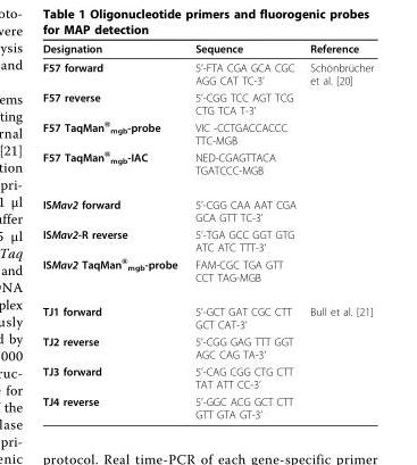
<table><thead><tr><td>Designation</td><td>Sequence</td><td>Reference</td></tr></thead><tbody><tr><td>F57 forward</td><td>5’-FTA CGA GCA CGC AGG CAT TC-3’</td><td>Schönbrücher et al. [20]</td></tr><tr><td>F57 reverse</td><td>5’-CGG TCC AGT TCG CTG TCA T-3’</td><td></td></tr><tr><td>F57 TaqMan<sup>®</sup> <sub>mgb</sub>-probe</td><td>VIC -CCTGACCACCC TTC-MGB</td><td></td></tr><tr><td>F57 TaqMan<sup>®</sup> <sub>mgb</sub>-IAC</td><td>NED-CGAGTTACA TGATCCC-MGB</td><td></td></tr><tr><td>ISMav2 forward</td><td>5’-CGG CAA AAT CGA GCA GTT TC-3’</td><td></td></tr><tr><td>ISMav2-R reverse</td><td>5’-TGA GCC GGT GTG ATC ATC TTT-3’</td><td></td></tr><tr><td>ISMav2 TaqMan<sup>®</sup> <sub>mgb</sub>-probe</td><td>FAM-CGC TGA GTT CCT TAG-MGB</td><td></td></tr><tr><td>TJ1 forward</td><td>5’-GCT GAT CGC CTT GCT CAT-3’</td><td>Bull et al. [21]</td></tr><tr><td>TJ2 reverse</td><td>5’-CGG GAG TTT GGT AGC CAG TA-3’</td><td></td></tr><tr><td>TJ3 forward</td><td>5’-CAG CGG CTG CTT TAT ATT CC-3’</td><td></td></tr><tr><td>TJ4 reverse</td><td>5’-GGC ACG GCT CTT GTT GTA GT-3’</td><td></td></tr></tbody></table>